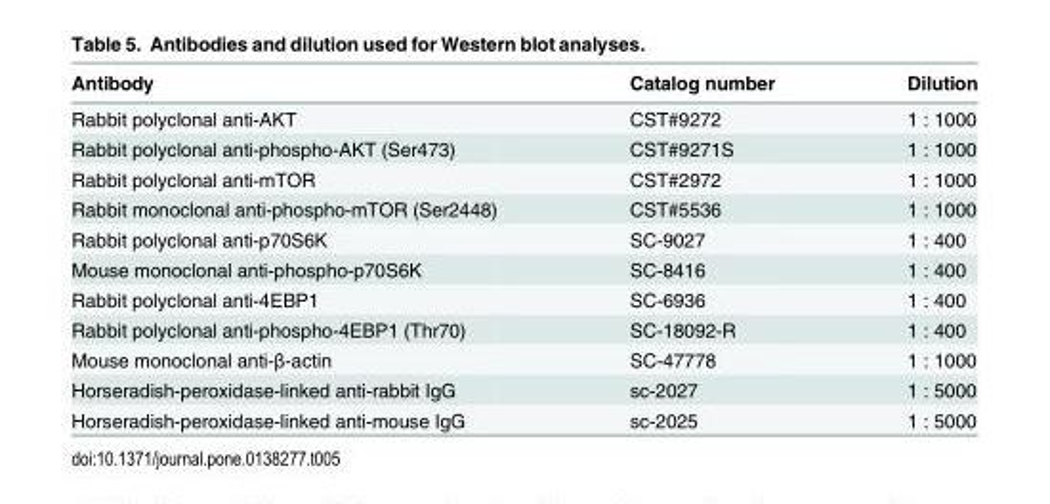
<table><thead><tr><td>Antibody</td><td>Catalog number</td><td>Dilution</td></tr></thead><tbody><tr><td>Rabbit polyclonal anti-AKT</td><td>CST#9272</td><td>1 : 1000</td></tr><tr><td>Rabbit polyclonal anti-phospho-AKT (Ser473)</td><td>CST#9271S</td><td>1 : 1000</td></tr><tr><td>Rabbit polyclonal anti-mTOR</td><td>CST#2972</td><td>1 : 1000</td></tr><tr><td>Rabbit monoclonal anti-phospho-mTOR (Ser2448)</td><td>CST#5536</td><td>1 : 1000</td></tr><tr><td>Rabbit polyclonal anti-p70S6K</td><td>SC-9027</td><td>1 : 400</td></tr><tr><td>Mouse monoclonal anti-phospho-p70S6K</td><td>SC-8416</td><td>1 : 400</td></tr><tr><td>Rabbit polyclonal anti-4EBP1</td><td>SC-6936</td><td>1 : 400</td></tr><tr><td>Rabbit polyclonal anti-phospho-4EBP1 (Thr70)</td><td>SC-18092-R</td><td>1 : 400</td></tr><tr><td>Mouse monoclonal anti-β-actin</td><td>SC-47778</td><td>1 : 1000</td></tr><tr><td>Horseradish-peroxidase-linked anti-rabbit IgG</td><td>sc-2027</td><td>1 : 5000</td></tr><tr><td>Horseradish-peroxidase-linked anti-mouse IgG</td><td>sc-2025</td><td>1 : 5000</td></tr></tbody></table>